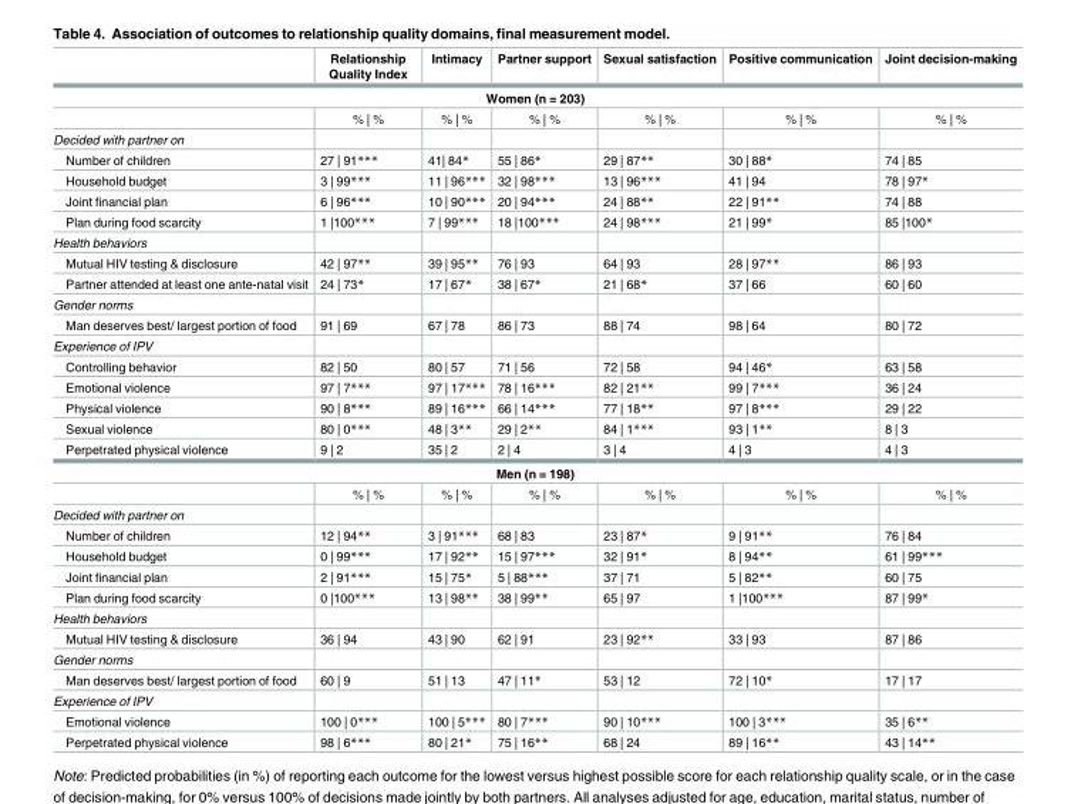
<table><thead><tr><td></td><td>Relationship Quality Index</td><td>Intimacy</td><td>Partner support</td><td>Sexual satisfaction</td><td>Positive communication</td><td>Joint decision-making</td></tr></thead><tbody><tr><td colspan="7">Women (n = 203)</td></tr><tr><td></td><td>% | %</td><td>% | %</td><td>% | %</td><td>% | %</td><td>% | %</td><td>% | %</td></tr><tr><td colspan="7">Decided with partner on</td></tr><tr><td>Number of children</td><td>27 | 91***</td><td>41| 84*</td><td>55 | 86*</td><td>29 | 87**</td><td>30 | 88*</td><td>74 | 85</td></tr><tr><td>Household budget</td><td>3 | 99***</td><td>11 | 96***</td><td>32 | 98***</td><td>13 | 96***</td><td>41 | 94</td><td>78 | 97*</td></tr><tr><td>Joint financial plan</td><td>6 | 96***</td><td>10 | 90***</td><td>20 | 94***</td><td>24 | 88**</td><td>22 | 91**</td><td>74 | 88</td></tr><tr><td>Plan during food scarcity</td><td>1 |100***</td><td>7 | 99***</td><td>18 |100***</td><td>24 | 98***</td><td>21 | 99*</td><td>85 |100*</td></tr><tr><td colspan="7">Health behaviors</td></tr><tr><td>Mutual HIV testing &amp; disclosure</td><td>42 | 97**</td><td>39 | 95**</td><td>76 | 93</td><td>64 | 93</td><td>28 | 97**</td><td>86 | 93</td></tr><tr><td>Partner attended at least one ante-natal visit</td><td>24 | 73*</td><td>17 | 67*</td><td>38 | 67*</td><td>21 | 68*</td><td>37 | 66</td><td>60 | 60</td></tr><tr><td colspan="7">Gender norms</td></tr><tr><td>Man deserves best/ largest portion of food</td><td>91 | 69</td><td>67 | 78</td><td>86 | 73</td><td>88 | 74</td><td>98 | 64</td><td>80 | 72</td></tr><tr><td colspan="7">Experience of IPV</td></tr><tr><td>Controlling behavior</td><td>82 | 50</td><td>80 | 57</td><td>71 | 56</td><td>72 | 58</td><td>94 | 46*</td><td>63 | 58</td></tr><tr><td>Emotional violence</td><td>97 | 7***</td><td>97 | 17***</td><td>78 | 16***</td><td>82 | 21**</td><td>99 | 7***</td><td>36 | 24</td></tr><tr><td>Physical violence</td><td>90 | 8***</td><td>89 | 16***</td><td>66 | 14***</td><td>77 | 18**</td><td>97 | 8***</td><td>29 | 22</td></tr><tr><td>Sexual violence</td><td>80 | 0***</td><td>48 | 3**</td><td>29 | 2**</td><td>84 | 1***</td><td>93 | 1**</td><td>8 | 3</td></tr><tr><td>Perpetrated physical violence</td><td>9 | 2</td><td>35 | 2</td><td>2 | 4</td><td>3 | 4</td><td>4 | 3</td><td>4 | 3</td></tr><tr><td colspan="7">Men (n = 198)</td></tr><tr><td></td><td>% | %</td><td>% | %</td><td>% | %</td><td>% | %</td><td>% | %</td><td>% | %</td></tr><tr><td colspan="7">Decided with partner on</td></tr><tr><td>Number of children</td><td>12 | 94**</td><td>3 | 91***</td><td>68 | 83</td><td>23 | 87*</td><td>9 | 91**</td><td>76 | 84</td></tr><tr><td>Household budget</td><td>0 | 99***</td><td>17 | 92**</td><td>15 | 97***</td><td>32 | 91*</td><td>8 | 94**</td><td>61 | 99***</td></tr><tr><td>Joint financial plan</td><td>2 | 91***</td><td>15 | 75*</td><td>5 | 88***</td><td>37 | 71</td><td>5 | 82**</td><td>60 | 75</td></tr><tr><td>Plan during food scarcity</td><td>0 |100***</td><td>13 | 98**</td><td>38 | 99**</td><td>65 | 97</td><td>1 |100***</td><td>87 | 99*</td></tr><tr><td colspan="7">Health behaviors</td></tr><tr><td>Mutual HIV testing &amp; disclosure</td><td>36 | 94</td><td>43 | 90</td><td>62 | 91</td><td>23 | 92**</td><td>33 | 93</td><td>87 | 86</td></tr><tr><td colspan="7">Gender norms</td></tr><tr><td>Man deserves best/ largest portion of food</td><td>60 | 9</td><td>51 | 13</td><td>47 | 11*</td><td>53 | 12</td><td>72 | 10*</td><td>17 | 17</td></tr><tr><td colspan="7">Experience of IPV</td></tr><tr><td>Emotional violence</td><td>100 | 0***</td><td>100 | 5***</td><td>80 | 7***</td><td>90 | 10***</td><td>100 | 3***</td><td>35 | 6**</td></tr><tr><td>Perpetrated physical violence</td><td>98 | 6***</td><td>80 | 21*</td><td>75 | 16**</td><td>68 | 24</td><td>89 | 16**</td><td>43 | 14**</td></tr></tbody></table>